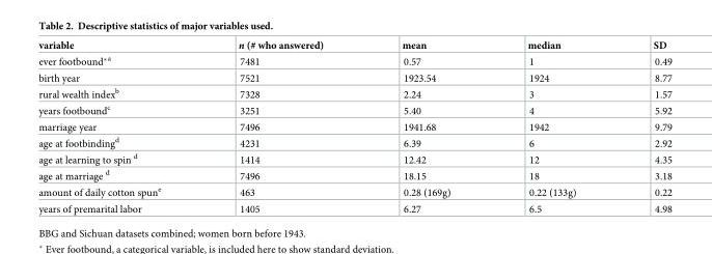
<table><thead><tr><td>variable</td><td>n (# who answered)</td><td>mean</td><td>median</td><td>SD</td></tr></thead><tbody><tr><td>ever footbound*<sup>a</sup></td><td>7481</td><td>0.57</td><td>1</td><td>0.49</td></tr><tr><td>birth year</td><td>7521</td><td>1923.54</td><td>1924</td><td>8.77</td></tr><tr><td>rural wealth index<sup>b</sup></td><td>7328</td><td>2.24</td><td>3</td><td>1.57</td></tr><tr><td>years footbound<sup>c</sup></td><td>3251</td><td>5.40</td><td>4</td><td>5.92</td></tr><tr><td>marriage year</td><td>7496</td><td>1941.68</td><td>1942</td><td>9.79</td></tr><tr><td>age at footbinding<sup>d</sup></td><td>4231</td><td>6.39</td><td>6</td><td>2.92</td></tr><tr><td>age at learning to spin <sup>d</sup></td><td>1414</td><td>12.42</td><td>12</td><td>4.35</td></tr><tr><td>age at marriage <sup>d</sup></td><td>7496</td><td>18.15</td><td>18</td><td>3.18</td></tr><tr><td>amount of daily cotton spun<sup>e</sup></td><td>463</td><td>0.28 (169g)</td><td>0.22 (133g)</td><td>0.22</td></tr><tr><td>years of premarital labor</td><td>1405</td><td>6.27</td><td>6.5</td><td>4.98</td></tr></tbody></table>